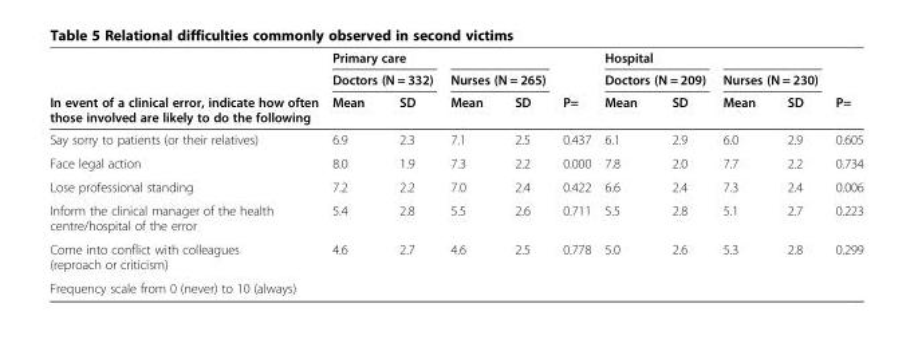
<table><thead><tr><td rowspan="3">In event of a clinical error, indicate how often those involved are likely to do the following</td><td rowspan="2" colspan="2">Primary care Doctors (N = 332)</td><td></td><td></td><td rowspan="3">P=</td><td rowspan="2" colspan="2">Hospital Doctors (N = 209)</td><td></td><td></td><td rowspan="3">P=</td></tr><tr><td colspan="2">Nurses (N = 265)</td><td colspan="2">Nurses (N = 230)</td></tr><tr><td>Mean</td><td>SD</td><td>Mean</td><td>SD</td><td>Mean</td><td>SD</td><td>Mean</td><td>SD</td></tr></thead><tbody><tr><td>Say sorry to patients (or their relatives)</td><td>6.9</td><td>2.3</td><td>7.1</td><td>2.5</td><td>0.437</td><td>6.1</td><td>2.9</td><td>6.0</td><td>2.9</td><td>0.605</td></tr><tr><td>Face legal action</td><td>8.0</td><td>1.9</td><td>7.3</td><td>2.2</td><td>0.000</td><td>7.8</td><td>2.0</td><td>7.7</td><td>2.2</td><td>0.734</td></tr><tr><td>Lose professional standing</td><td>7.2</td><td>2.2</td><td>7.0</td><td>2.4</td><td>0.422</td><td>6.6</td><td>2.4</td><td>7.3</td><td>2.4</td><td>0.006</td></tr><tr><td>Inform the clinical manager of the health centre/hospital of the error</td><td>5.4</td><td>2.8</td><td>5.5</td><td>2.6</td><td>0.711</td><td>5.5</td><td>2.8</td><td>5.1</td><td>2.7</td><td>0.223</td></tr><tr><td>Come into conflict with colleagues (reproach or criticism)</td><td>4.6</td><td>2.7</td><td>4.6</td><td>2.5</td><td>0.778</td><td>5.0</td><td>2.6</td><td>5.3</td><td>2.8</td><td>0.299</td></tr><tr><td>Frequency scale from 0 (never) to 10 (always)</td><td></td><td></td><td></td><td></td><td></td><td></td><td></td><td></td><td></td><td></td></tr></tbody></table>